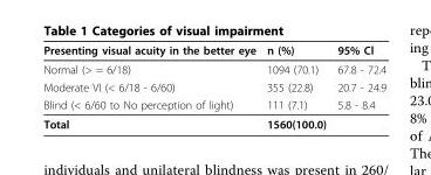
<table><thead><tr><td>Presenting visual acuity in the better eye</td><td>n (%)</td><td>95% Cl</td></tr></thead><tbody><tr><td>Normal (&gt; = 6/18)</td><td>1094 (70.1)</td><td>67.8 - 72.4</td></tr><tr><td>Moderate VI (&lt; 6/18 - 6/60)</td><td>355 (22.8)</td><td>20.7 - 24.9</td></tr><tr><td>Blind (&lt; 6/60 to No perception of light)</td><td>111 (7.1)</td><td>5.8 - 8.4</td></tr><tr><td>Total</td><td>1560(100.0)</td><td></td></tr></tbody></table>